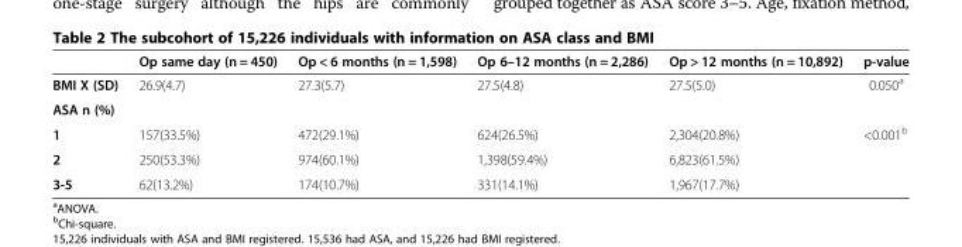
<table><thead><tr><td></td><td>Op same day (n = 450)</td><td>Op &lt; 6 months (n = 1,598)</td><td>Op 6–12 months (n = 2,286)</td><td>Op &gt; 12 months (n = 10,892)</td><td>p-value</td></tr></thead><tbody><tr><td>BMI X (SD)</td><td>26.9(4.7)</td><td>27.3(5.7)</td><td>27.5(4.8)</td><td>27.5(5.0)</td><td>0.050<sup>a</sup></td></tr><tr><td colspan="6">ASA n (%)</td></tr><tr><td>1</td><td>157(33.5%)</td><td>472(29.1%)</td><td>624(26.5%)</td><td>2,304(20.8%)</td><td rowspan="3">&lt;0.001<sup>b</sup></td></tr><tr><td>2</td><td>250(53.3%)</td><td>974(60.1%)</td><td>1,398(59.4%)</td><td>6,823(61.5%)</td></tr><tr><td>3-5</td><td>62(13.2%)</td><td>174(10.7%)</td><td>331(14.1%)</td><td>1,967(17.7%)</td></tr></tbody></table>